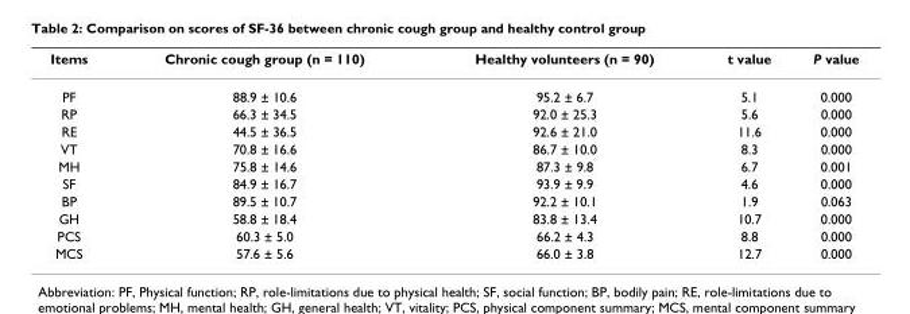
<table><thead><tr><td>Items</td><td>Chronic cough group (n = 110)</td><td>Healthy volunteers (n = 90)</td><td>t value</td><td>P value</td></tr></thead><tbody><tr><td>PF</td><td>88.9 ± 10.6</td><td>95.2 ± 6.7</td><td>5.1</td><td>0.000</td></tr><tr><td>RP</td><td>66.3 ± 34.5</td><td>92.0 ± 25.3</td><td>5.6</td><td>0.000</td></tr><tr><td>RE</td><td>44.5 ± 36.5</td><td>92.6 ± 21.0</td><td>11.6</td><td>0.000</td></tr><tr><td>VT</td><td>70.8 ± 16.6</td><td>86.7 ± 10.0</td><td>8.3</td><td>0.000</td></tr><tr><td>MH</td><td>75.8 ± 14.6</td><td>87.3 ± 9.8</td><td>6.7</td><td>0.001</td></tr><tr><td>SF</td><td>84.9 ± 16.7</td><td>93.9 ± 9.9</td><td>4.6</td><td>0.000</td></tr><tr><td>BP</td><td>89.5 ± 10.7</td><td>92.2 ± 10.1</td><td>1.9</td><td>0.063</td></tr><tr><td>GH</td><td>58.8 ± 18.4</td><td>83.8 ± 13.4</td><td>10.7</td><td>0.000</td></tr><tr><td>PCS</td><td>60.3 ± 5.0</td><td>66.2 ± 4.3</td><td>8.8</td><td>0.000</td></tr><tr><td>MCS</td><td>57.6 ± 5.6</td><td>66.0 ± 3.8</td><td>12.7</td><td>0.000</td></tr></tbody></table>